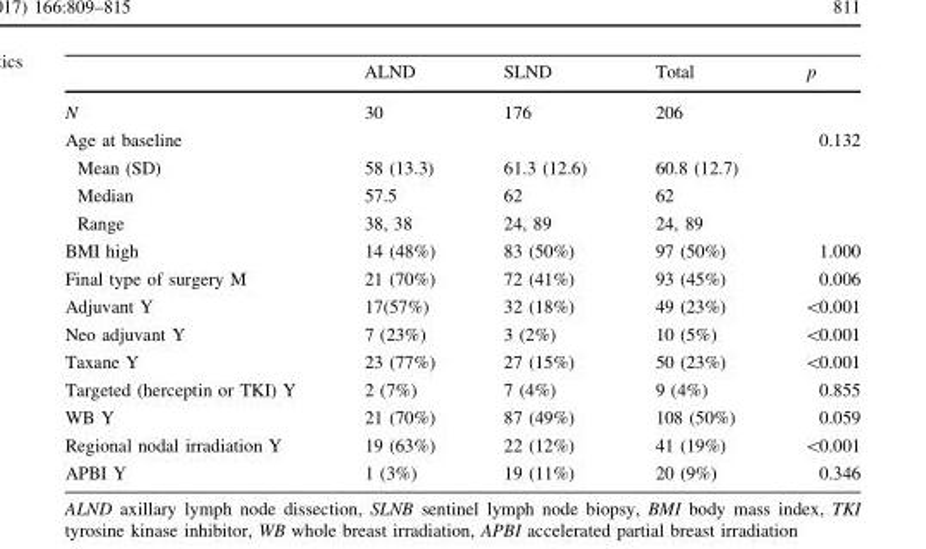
<table><thead><tr><td></td><td>ALND</td><td>SLND</td><td>Total</td><td>p</td></tr></thead><tbody><tr><td>N</td><td>30</td><td>176</td><td>206</td><td></td></tr><tr><td>Age at baseline</td><td></td><td></td><td></td><td>0.132</td></tr><tr><td>Mean (SD)</td><td>58 (13.3)</td><td>61.3 (12.6)</td><td>60.8 (12.7)</td><td></td></tr><tr><td>Median</td><td>57.5</td><td>62</td><td>62</td><td></td></tr><tr><td>Range</td><td>38, 38</td><td>24, 89</td><td>24, 89</td><td></td></tr><tr><td>BMI high</td><td>14 (48%)</td><td>83 (50%)</td><td>97 (50%)</td><td>1.000</td></tr><tr><td>Final type of surgery M</td><td>21 (70%)</td><td>72 (41%)</td><td>93 (45%)</td><td>0.006</td></tr><tr><td>Adjuvant Y</td><td>17(57%)</td><td>32 (18%)</td><td>49 (23%)</td><td>&lt;0.001</td></tr><tr><td>Neo adjuvant Y</td><td>7 (23%)</td><td>3 (2%)</td><td>10 (5%)</td><td>&lt;0.001</td></tr><tr><td>Taxane Y</td><td>23 (77%)</td><td>27 (15%)</td><td>50 (23%)</td><td>&lt;0.001</td></tr><tr><td>Targeted (herceptin or TKI) Y</td><td>2 (7%)</td><td>7 (4%)</td><td>9 (4%)</td><td>0.855</td></tr><tr><td>WB Y</td><td>21 (70%)</td><td>87 (49%)</td><td>108 (50%)</td><td>0.059</td></tr><tr><td>Regional nodal irradiation Y</td><td>19 (63%)</td><td>22 (12%)</td><td>41 (19%)</td><td>&lt;0.001</td></tr><tr><td>APBI Y</td><td>1 (3%)</td><td>19 (11%)</td><td>20 (9%)</td><td>0.346</td></tr></tbody></table>